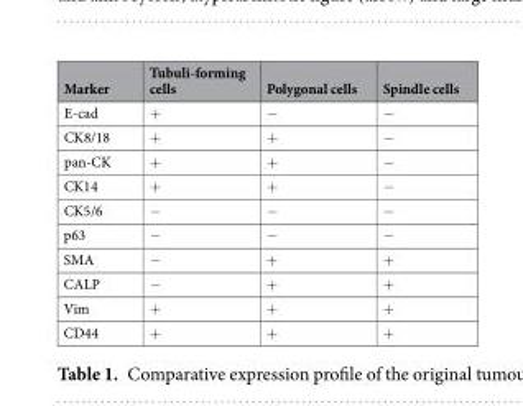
<table><thead><tr><td>Marker</td><td>Tubuli-forming cells</td><td>Polygonal cells</td><td>Spindle cells</td></tr></thead><tbody><tr><td>E-cad</td><td>+</td><td>−</td><td>−</td></tr><tr><td>CK8/18</td><td>+</td><td>+</td><td>−</td></tr><tr><td>pan-CK</td><td>+</td><td>+</td><td>−</td></tr><tr><td>CK14</td><td>+</td><td>+</td><td>−</td></tr><tr><td>CK5/6</td><td>−</td><td>−</td><td>−</td></tr><tr><td>p63</td><td>−</td><td>−</td><td>−</td></tr><tr><td>SMA</td><td>−</td><td>+</td><td>+</td></tr><tr><td>CALP</td><td>−</td><td>+</td><td>+</td></tr><tr><td>Vim</td><td>+</td><td>+</td><td>+</td></tr><tr><td>CD44</td><td>+</td><td>+</td><td>+</td></tr></tbody></table>